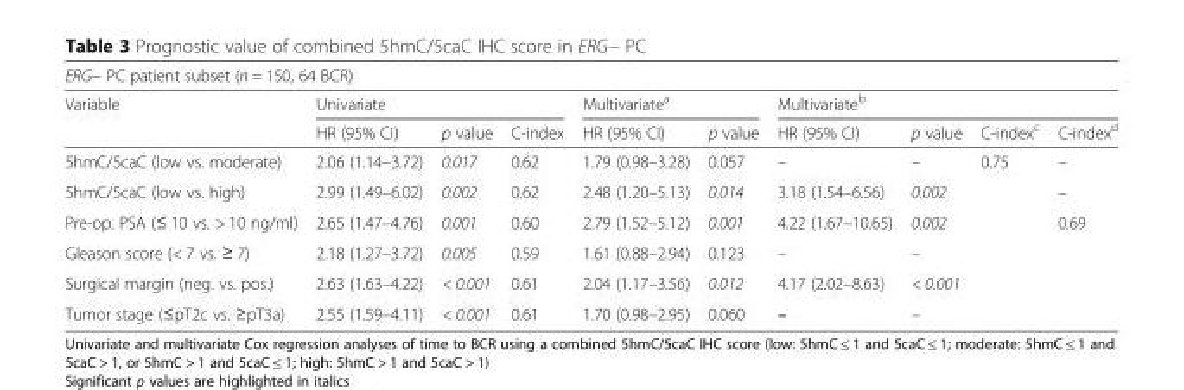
<table><thead><tr><td colspan="10">ERG− PC patient subset (n = 150, 64 BCR)</td></tr><tr><td rowspan="2">Variable</td><td colspan="3">Univariate</td><td colspan="2">Multivariate<sup>a</sup></td><td colspan="4">Multivariate<sup>b</sup></td></tr><tr><td>HR (95% CI)</td><td>p value</td><td>C-index</td><td>HR (95% CI)</td><td>p value</td><td>HR (95% CI)</td><td>p value</td><td>C-index<sup>c</sup></td><td>C-index<sup>d</sup></td></tr></thead><tbody><tr><td>5hmC/5caC (low vs. moderate)</td><td>2.06 (1.14–3.72)</td><td>0.017</td><td>0.62</td><td>1.79 (0.98–3.28)</td><td>0.057</td><td>–</td><td>–</td><td rowspan="6">0.75</td><td>–</td></tr><tr><td>5hmC/5caC (low vs. high)</td><td>2.99 (1.49–6.02)</td><td>0.002</td><td>0.62</td><td>2.48 (1.20–5.13)</td><td>0.014</td><td>3.18 (1.54–6.56)</td><td>0.002</td><td>–</td></tr><tr><td>Pre-op. PSA (≤ 10 vs. &gt; 10 ng/ml)</td><td>2.65 (1.47–4.76)</td><td>0.001</td><td>0.60</td><td>2.79 (1.52–5.12)</td><td>0.001</td><td>4.22 (1.67–10.65)</td><td>0.002</td><td rowspan="4">0.69</td></tr><tr><td>Gleason score (&lt; 7 vs. ≥ 7)</td><td>2.18 (1.27–3.72)</td><td>0.005</td><td>0.59</td><td>1.61 (0.88–2.94)</td><td>0.123</td><td>–</td><td>–</td></tr><tr><td>Surgical margin (neg. vs. pos.)</td><td>2.63 (1.63–4.22)</td><td>&lt; 0.001</td><td>0.61</td><td>2.04 (1.17–3.56)</td><td>0.012</td><td>4.17 (2.02–8.63)</td><td>&lt; 0.001</td></tr><tr><td>Tumor stage (≤pT2c vs. ≥pT3a)</td><td>2.55 (1.59–4.11)</td><td>&lt; 0.001</td><td>0.61</td><td>1.70 (0.98–2.95)</td><td>0.060</td><td>–</td><td>–</td></tr></tbody></table>